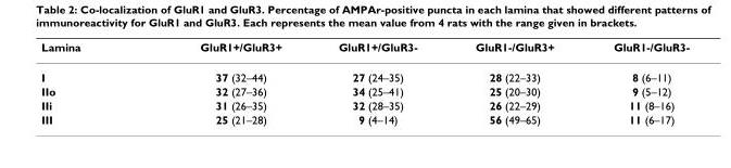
<table><thead><tr><td>Lamina</td><td>GluR1+/GluR3+</td><td>GluR1+/GluR3-</td><td>GluR1-/GluR3+</td><td>GluR1-/GluR3-</td></tr></thead><tbody><tr><td>I</td><td>37 (32–44)</td><td>27 (24–35)</td><td>28 (22–33)</td><td>8 (6–11)</td></tr><tr><td>IIo</td><td>32 (27–36)</td><td>34 (25–41)</td><td>25 (20–30)</td><td>9 (5–12)</td></tr><tr><td>IIi</td><td>31 (26–35)</td><td>32 (28–35)</td><td>26 (22–29)</td><td>11 (8–16)</td></tr><tr><td>III</td><td>25 (21–28)</td><td>9 (4–14)</td><td>56 (49–65)</td><td>11 (6–17)</td></tr></tbody></table>